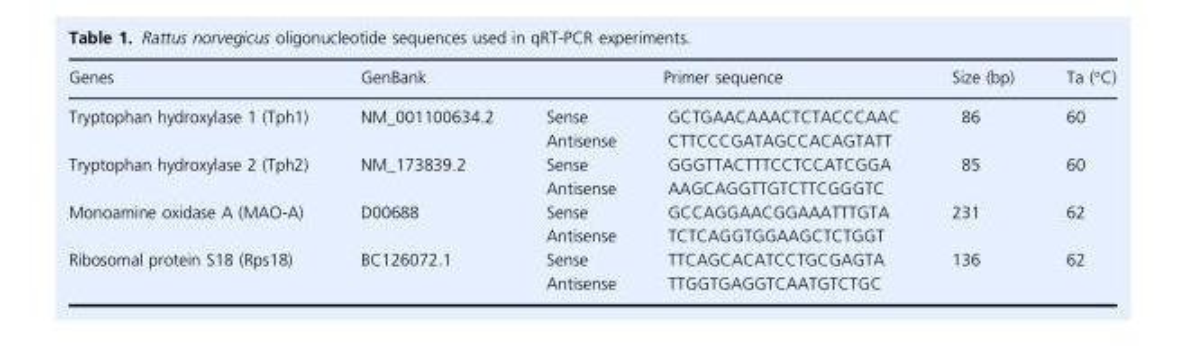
<table><thead><tr><td>Genes</td><td>GenBank</td><td></td><td>Primer sequence</td><td>Size (bp)</td><td>Ta (°C)</td></tr></thead><tbody><tr><td rowspan="2">Tryptophan hydroxylase 1 (Tph1)</td><td>NM_001100634.2</td><td>Sense</td><td>GCTGAACAAACTCTACCCAAC</td><td>86</td><td>60</td></tr><tr><td></td><td>Antisense</td><td>CTTCCCGATAGCCACAGTATT</td><td></td><td></td></tr><tr><td rowspan="2">Tryptophan hydroxylase 2 (Tph2)</td><td>NM_173839.2</td><td>Sense</td><td>GGGTTACTTTCCTCCATCGGA</td><td>85</td><td>60</td></tr><tr><td></td><td>Antisense</td><td>AAGCAGGTTGTCTTCGGGTC</td><td></td><td></td></tr><tr><td rowspan="2">Monoamine oxidase A (MAO-A)</td><td>D00688</td><td>Sense</td><td>GCCAGGAACGGAAATTTGTA</td><td>231</td><td>62</td></tr><tr><td></td><td>Antisense</td><td>TCTCAGGTGGAAGCTCTGGT</td><td></td><td></td></tr><tr><td rowspan="2">Ribosomal protein S18 (Rps18)</td><td>BC126072.1</td><td>Sense</td><td>TTCAGCACATCCTGCGAGTA</td><td>136</td><td>62</td></tr><tr><td></td><td>Antisense</td><td>TTGGTGAGGTCAATGTCTGC</td><td></td><td></td></tr></tbody></table>